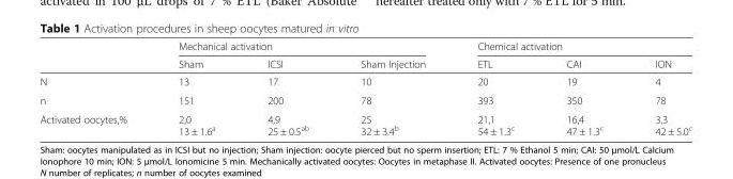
<table><thead><tr><td rowspan="2"></td><td colspan="3">Mechanical activation</td><td colspan="3">Chemical activation</td></tr><tr><td>Sham</td><td>ICSI</td><td>Sham Injection</td><td>ETL</td><td>CAI</td><td>ION</td></tr></thead><tbody><tr><td>N</td><td>13</td><td>17</td><td>10</td><td>20</td><td>19</td><td>4</td></tr><tr><td>n</td><td>151</td><td>200</td><td>78</td><td>393</td><td>350</td><td>78</td></tr><tr><td>Activated oocytes,%</td><td>2,0 13 ± 1.6<sup>a</sup></td><td>4,9 25 ± 0.5<sup>ab</sup></td><td>25 32 ± 3.4<sup>b</sup></td><td>21,1 54 ± 1.3<sup>c</sup></td><td>16,4 47 ± 1.3<sup>c</sup></td><td>3,3 42 ± 5.0<sup>c</sup></td></tr></tbody></table>